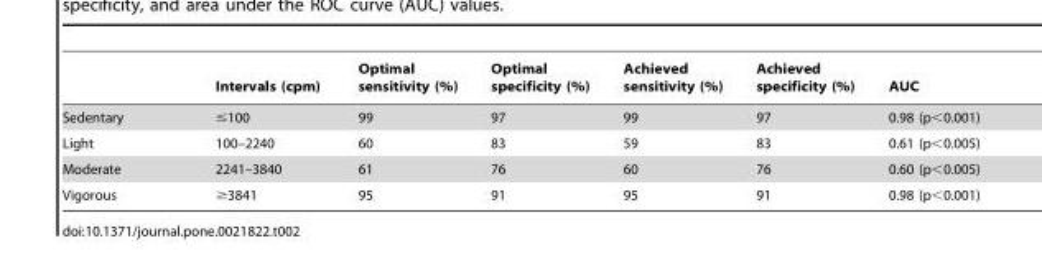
<table><thead><tr><td></td><td>Intervals (cpm)</td><td>Optimal sensitivity (%)</td><td>Optimal specificity (%)</td><td>Achieved sensitivity (%)</td><td>Achieved specificity (%)</td><td>AUC</td></tr></thead><tbody><tr><td>Sedentary</td><td>≤100</td><td>99</td><td>97</td><td>99</td><td>97</td><td>0.98 (p&lt;0.001)</td></tr><tr><td>Light</td><td>100–2240</td><td>60</td><td>83</td><td>59</td><td>83</td><td>0.61 (p&lt;0.005)</td></tr><tr><td>Moderate</td><td>2241–3840</td><td>61</td><td>76</td><td>60</td><td>76</td><td>0.60 (p&lt;0.005)</td></tr><tr><td>Vigorous</td><td>≥3841</td><td>95</td><td>91</td><td>95</td><td>91</td><td>0.98 (p&lt;0.001)</td></tr></tbody></table>